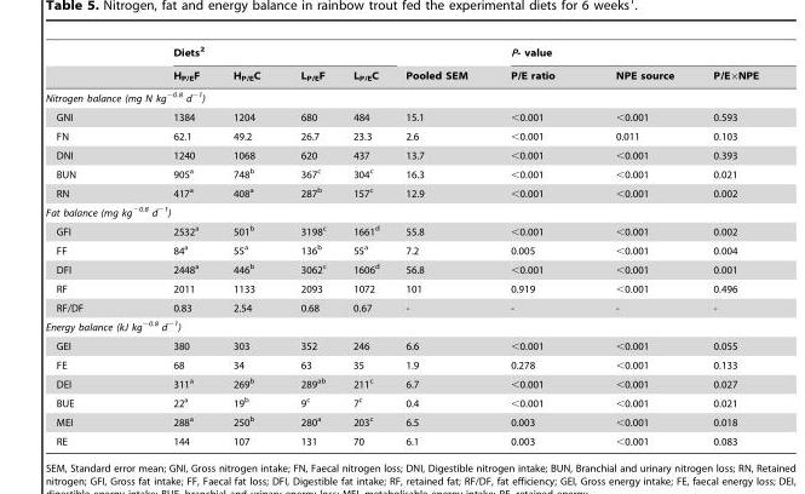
<table><thead><tr><td rowspan="2"></td><td colspan="4">Diets<sup>2</sup></td><td rowspan="2">Pooled SEM</td><td colspan="3">P- value</td></tr><tr><td>H<sub>P/E</sub>F</td><td>H<sub>P/E</sub>C</td><td>L<sub>P/E</sub>F</td><td>L<sub>P/E</sub>C</td><td>P/E ratio</td><td>NPE source</td><td>P/E×NPE</td></tr></thead><tbody><tr><td colspan="9">Nitrogen balance (mg N kg<sup>−0.8</sup> d<sup>−1</sup>)</td></tr><tr><td>GNI</td><td>1384</td><td>1204</td><td>680</td><td>484</td><td>15.1</td><td>&lt;0.001</td><td>&lt;0.001</td><td>0.593</td></tr><tr><td>FN</td><td>62.1</td><td>49.2</td><td>26.7</td><td>23.3</td><td>2.6</td><td>&lt;0.001</td><td>0.011</td><td>0.103</td></tr><tr><td>DNI</td><td>1240</td><td>1068</td><td>620</td><td>437</td><td>13.7</td><td>&lt;0.001</td><td>&lt;0.001</td><td>0.393</td></tr><tr><td>BUN</td><td>905<sup>a</sup></td><td>748<sup>b</sup></td><td>367<sup>c</sup></td><td>304<sup>c</sup></td><td>16.3</td><td>&lt;0.001</td><td>&lt;0.001</td><td>0.021</td></tr><tr><td>RN</td><td>417<sup>a</sup></td><td>408<sup>a</sup></td><td>287<sup>b</sup></td><td>157<sup>c</sup></td><td>12.9</td><td>&lt;0.001</td><td>&lt;0.001</td><td>0.002</td></tr><tr><td colspan="9">Fat balance (mg kg<sup>−0.8</sup> d<sup>−1</sup>)</td></tr><tr><td>GFI</td><td>2532<sup>a</sup></td><td>501<sup>b</sup></td><td>3198<sup>c</sup></td><td>1661<sup>d</sup></td><td>55.8</td><td>&lt;0.001</td><td>&lt;0.001</td><td>0.002</td></tr><tr><td>FF</td><td>84<sup>a</sup></td><td>55<sup>a</sup></td><td>136<sup>b</sup></td><td>55<sup>a</sup></td><td>7.2</td><td>0.005</td><td>&lt;0.001</td><td>0.004</td></tr><tr><td>DFI</td><td>2448<sup>a</sup></td><td>446<sup>b</sup></td><td>3062<sup>c</sup></td><td>1606<sup>d</sup></td><td>56.8</td><td>&lt;0.001</td><td>&lt;0.001</td><td>0.001</td></tr><tr><td>RF</td><td>2011</td><td>1133</td><td>2093</td><td>1072</td><td>101</td><td>0.919</td><td>&lt;0.001</td><td>0.496</td></tr><tr><td>RF/DF</td><td>0.83</td><td>2.54</td><td>0.68</td><td>0.67</td><td>-</td><td>-</td><td>-</td><td>-</td></tr><tr><td colspan="9">Energy balance (kJ kg<sup>−0.8</sup> d<sup>−1</sup>)</td></tr><tr><td>GEI</td><td>380</td><td>303</td><td>352</td><td>246</td><td>6.6</td><td>&lt;0.001</td><td>&lt;0.001</td><td>0.055</td></tr><tr><td>FE</td><td>68</td><td>34</td><td>63</td><td>35</td><td>1.9</td><td>0.278</td><td>&lt;0.001</td><td>0.133</td></tr><tr><td>DEI</td><td>311<sup>a</sup></td><td>269<sup>b</sup></td><td>289<sup>ab</sup></td><td>211<sup>c</sup></td><td>6.7</td><td>&lt;0.001</td><td>&lt;0.001</td><td>0.027</td></tr><tr><td>BUE</td><td>22<sup>a</sup></td><td>19<sup>b</sup></td><td>9<sup>c</sup></td><td>7<sup>c</sup></td><td>0.4</td><td>&lt;0.001</td><td>&lt;0.001</td><td>0.021</td></tr><tr><td>MEI</td><td>288<sup>a</sup></td><td>250<sup>b</sup></td><td>280<sup>a</sup></td><td>203<sup>c</sup></td><td>6.5</td><td>0.003</td><td>&lt;0.001</td><td>0.018</td></tr><tr><td>RE</td><td>144</td><td>107</td><td>131</td><td>70</td><td>6.1</td><td>0.003</td><td>&lt;0.001</td><td>0.083</td></tr></tbody></table>